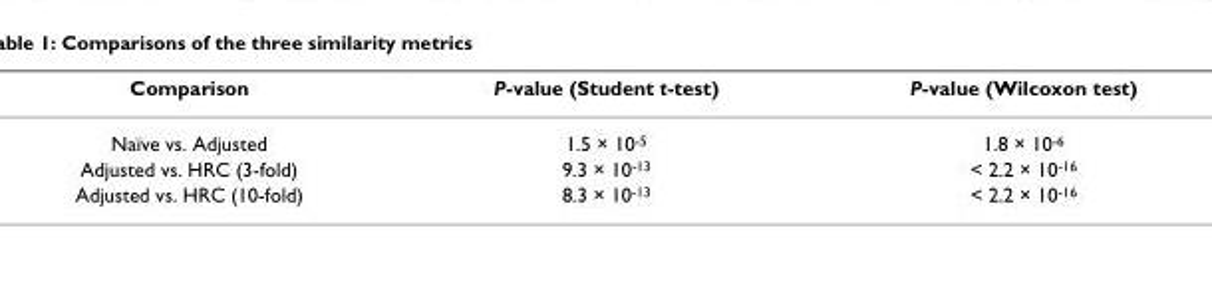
<table><thead><tr><td>Comparison</td><td>P-value (Student t-test)</td><td>P-value (Wilcoxon test)</td></tr></thead><tbody><tr><td>Naïve vs. Adjusted</td><td>1.5 × 10-5</td><td>1.8 × 10-6</td></tr><tr><td>Adjusted vs. HRC (3-fold)</td><td>9.3 × 10-13</td><td>&lt; 2.2 × 10-16</td></tr><tr><td>Adjusted vs. HRC (10-fold)</td><td>8.3 × 10-13</td><td>&lt; 2.2 × 10-16</td></tr></tbody></table>